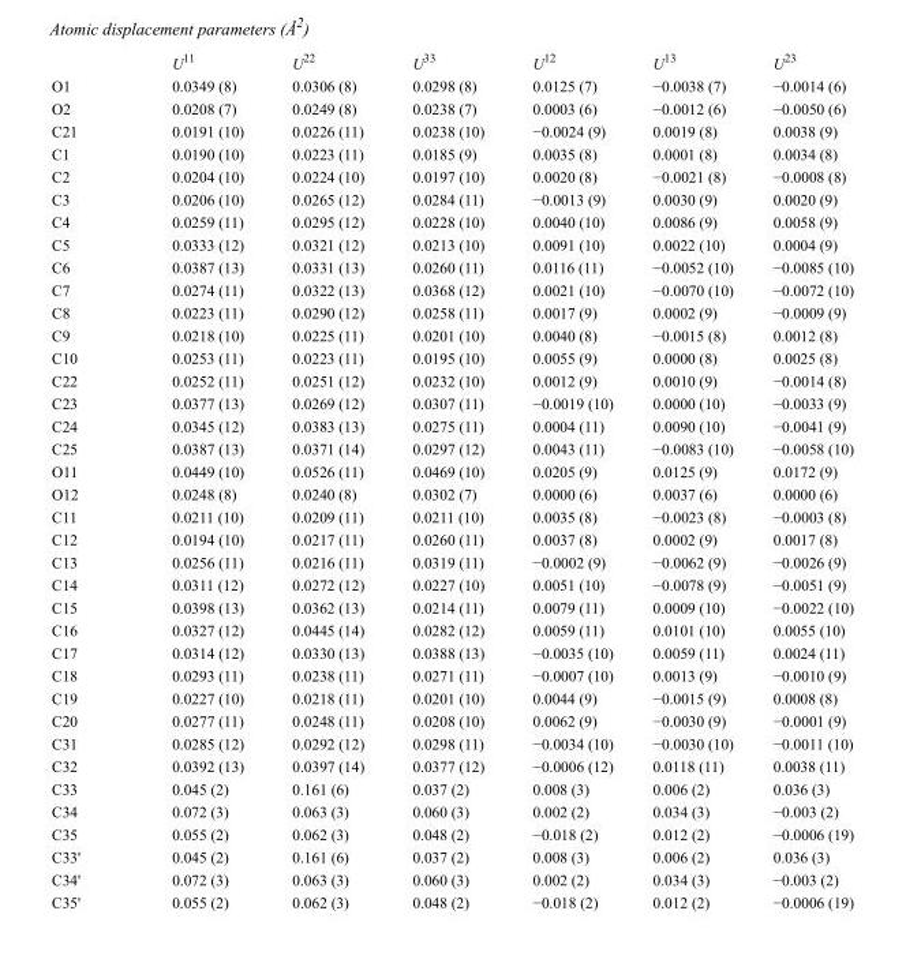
<table><thead><tr><td></td><td>U<sup>11</sup></td><td>U<sup>22</sup></td><td>U<sup>33</sup></td><td>U<sup>12</sup></td><td>U<sup>13</sup></td><td>U<sup>23</sup></td></tr></thead><tbody><tr><td>O1</td><td>0.0349 (8)</td><td>0.0306 (8)</td><td>0.0298 (8)</td><td>0.0125 (7)</td><td>−0.0038 (7)</td><td>−0.0014 (6)</td></tr><tr><td>O2</td><td>0.0208 (7)</td><td>0.0249 (8)</td><td>0.0238 (7)</td><td>0.0003 (6)</td><td>−0.0012 (6)</td><td>−0.0050 (6)</td></tr><tr><td>C21</td><td>0.0191 (10)</td><td>0.0226 (11)</td><td>0.0238 (10)</td><td>−0.0024 (9)</td><td>0.0019 (8)</td><td>0.0038 (9)</td></tr><tr><td>C1</td><td>0.0190 (10)</td><td>0.0223 (11)</td><td>0.0185 (9)</td><td>0.0035 (8)</td><td>0.0001 (8)</td><td>0.0034 (8)</td></tr><tr><td>C2</td><td>0.0204 (10)</td><td>0.0224 (10)</td><td>0.0197 (10)</td><td>0.0020 (8)</td><td>−0.0021 (8)</td><td>−0.0008 (8)</td></tr><tr><td>C3</td><td>0.0206 (10)</td><td>0.0265 (12)</td><td>0.0284 (11)</td><td>−0.0013 (9)</td><td>0.0030 (9)</td><td>0.0020 (9)</td></tr><tr><td>C4</td><td>0.0259 (11)</td><td>0.0295 (12)</td><td>0.0228 (10)</td><td>0.0040 (10)</td><td>0.0086 (9)</td><td>0.0058 (9)</td></tr><tr><td>C5</td><td>0.0333 (12)</td><td>0.0321 (12)</td><td>0.0213 (10)</td><td>0.0091 (10)</td><td>0.0022 (10)</td><td>0.0004 (9)</td></tr><tr><td>C6</td><td>0.0387 (13)</td><td>0.0331 (13)</td><td>0.0260 (11)</td><td>0.0116 (11)</td><td>−0.0052 (10)</td><td>−0.0085 (10)</td></tr><tr><td>C7</td><td>0.0274 (11)</td><td>0.0322 (13)</td><td>0.0368 (12)</td><td>0.0021 (10)</td><td>−0.0070 (10)</td><td>−0.0072 (10)</td></tr><tr><td>C8</td><td>0.0223 (11)</td><td>0.0290 (12)</td><td>0.0258 (11)</td><td>0.0017 (9)</td><td>0.0002 (9)</td><td>−0.0009 (9)</td></tr><tr><td>C9</td><td>0.0218 (10)</td><td>0.0225 (11)</td><td>0.0201 (10)</td><td>0.0040 (8)</td><td>−0.0015 (8)</td><td>0.0012 (8)</td></tr><tr><td>C10</td><td>0.0253 (11)</td><td>0.0223 (11)</td><td>0.0195 (10)</td><td>0.0055 (9)</td><td>0.0000 (8)</td><td>0.0025 (8)</td></tr><tr><td>C22</td><td>0.0252 (11)</td><td>0.0251 (12)</td><td>0.0232 (10)</td><td>0.0012 (9)</td><td>0.0010 (9)</td><td>−0.0014 (8)</td></tr><tr><td>C23</td><td>0.0377 (13)</td><td>0.0269 (12)</td><td>0.0307 (11)</td><td>−0.0019 (10)</td><td>0.0000 (10)</td><td>−0.0033 (9)</td></tr><tr><td>C24</td><td>0.0345 (12)</td><td>0.0383 (13)</td><td>0.0275 (11)</td><td>0.0004 (11)</td><td>0.0090 (10)</td><td>−0.0041 (9)</td></tr><tr><td>C25</td><td>0.0387 (13)</td><td>0.0371 (14)</td><td>0.0297 (12)</td><td>0.0043 (11)</td><td>−0.0083 (10)</td><td>−0.0058 (10)</td></tr><tr><td>O11</td><td>0.0449 (10)</td><td>0.0526 (11)</td><td>0.0469 (10)</td><td>0.0205 (9)</td><td>0.0125 (9)</td><td>0.0172 (9)</td></tr><tr><td>O12</td><td>0.0248 (8)</td><td>0.0240 (8)</td><td>0.0302 (7)</td><td>0.0000 (6)</td><td>0.0037 (6)</td><td>0.0000 (6)</td></tr><tr><td>C11</td><td>0.0211 (10)</td><td>0.0209 (11)</td><td>0.0211 (10)</td><td>0.0035 (8)</td><td>−0.0023 (8)</td><td>−0.0003 (8)</td></tr><tr><td>C12</td><td>0.0194 (10)</td><td>0.0217 (11)</td><td>0.0260 (11)</td><td>0.0037 (8)</td><td>0.0002 (9)</td><td>0.0017 (8)</td></tr><tr><td>C13</td><td>0.0256 (11)</td><td>0.0216 (11)</td><td>0.0319 (11)</td><td>−0.0002 (9)</td><td>−0.0062 (9)</td><td>−0.0026 (9)</td></tr><tr><td>C14</td><td>0.0311 (12)</td><td>0.0272 (12)</td><td>0.0227 (10)</td><td>0.0051 (10)</td><td>−0.0078 (9)</td><td>−0.0051 (9)</td></tr><tr><td>C15</td><td>0.0398 (13)</td><td>0.0362 (13)</td><td>0.0214 (11)</td><td>0.0079 (11)</td><td>0.0009 (10)</td><td>−0.0022 (10)</td></tr><tr><td>C16</td><td>0.0327 (12)</td><td>0.0445 (14)</td><td>0.0282 (12)</td><td>0.0059 (11)</td><td>0.0101 (10)</td><td>0.0055 (10)</td></tr><tr><td>C17</td><td>0.0314 (12)</td><td>0.0330 (13)</td><td>0.0388 (13)</td><td>−0.0035 (10)</td><td>0.0059 (11)</td><td>0.0024 (11)</td></tr><tr><td>C18</td><td>0.0293 (11)</td><td>0.0238 (11)</td><td>0.0271 (11)</td><td>−0.0007 (10)</td><td>0.0013 (9)</td><td>−0.0010 (9)</td></tr><tr><td>C19</td><td>0.0227 (10)</td><td>0.0218 (11)</td><td>0.0201 (10)</td><td>0.0044 (9)</td><td>−0.0015 (9)</td><td>0.0008 (8)</td></tr><tr><td>C20</td><td>0.0277 (11)</td><td>0.0248 (11)</td><td>0.0208 (10)</td><td>0.0062 (9)</td><td>−0.0030 (9)</td><td>−0.0001 (9)</td></tr><tr><td>C31</td><td>0.0285 (12)</td><td>0.0292 (12)</td><td>0.0298 (11)</td><td>−0.0034 (10)</td><td>−0.0030 (10)</td><td>−0.0011 (10)</td></tr><tr><td>C32</td><td>0.0392 (13)</td><td>0.0397 (14)</td><td>0.0377 (12)</td><td>−0.0006 (12)</td><td>0.0118 (11)</td><td>0.0038 (11)</td></tr><tr><td>C33</td><td>0.045 (2)</td><td>0.161 (6)</td><td>0.037 (2)</td><td>0.008 (3)</td><td>0.006 (2)</td><td>0.036 (3)</td></tr><tr><td>C34</td><td>0.072 (3)</td><td>0.063 (3)</td><td>0.060 (3)</td><td>0.002 (2)</td><td>0.034 (3)</td><td>−0.003 (2)</td></tr><tr><td>C35</td><td>0.055 (2)</td><td>0.062 (3)</td><td>0.048 (2)</td><td>−0.018 (2)</td><td>0.012 (2)</td><td>−0.0006 (19)</td></tr><tr><td>C33&#x27;</td><td>0.045 (2)</td><td>0.161 (6)</td><td>0.037 (2)</td><td>0.008 (3)</td><td>0.006 (2)</td><td>0.036 (3)</td></tr><tr><td>C34&#x27;</td><td>0.072 (3)</td><td>0.063 (3)</td><td>0.060 (3)</td><td>0.002 (2)</td><td>0.034 (3)</td><td>−0.003 (2)</td></tr><tr><td>C35&#x27;</td><td>0.055 (2)</td><td>0.062 (3)</td><td>0.048 (2)</td><td>−0.018 (2)</td><td>0.012 (2)</td><td>−0.0006 (19)</td></tr></tbody></table>